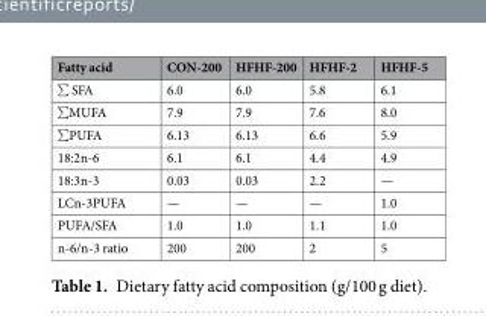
<table><thead><tr><td>Fatty acid</td><td>CON-200</td><td>HFHF-200</td><td>HFHF-2</td><td>HFHF-5</td></tr></thead><tbody><tr><td>∑ SFA</td><td>6.0</td><td>6.0</td><td>5.8</td><td>6.1</td></tr><tr><td>∑MUFA</td><td>7.9</td><td>7.9</td><td>7.6</td><td>8.0</td></tr><tr><td>∑PUFA</td><td>6.13</td><td>6.13</td><td>6.6</td><td>5.9</td></tr><tr><td>18:2n-6</td><td>6.1</td><td>6.1</td><td>4.4</td><td>4.9</td></tr><tr><td>18:3n-3</td><td>0.03</td><td>0.03</td><td>2.2</td><td>—</td></tr><tr><td>LCn-3PUFA</td><td>—</td><td>—</td><td>—</td><td>1.0</td></tr><tr><td>PUFA/SFA</td><td>1.0</td><td>1.0</td><td>1.1</td><td>1.0</td></tr><tr><td>n-6/n-3 ratio</td><td>200</td><td>200</td><td>2</td><td>5</td></tr></tbody></table>